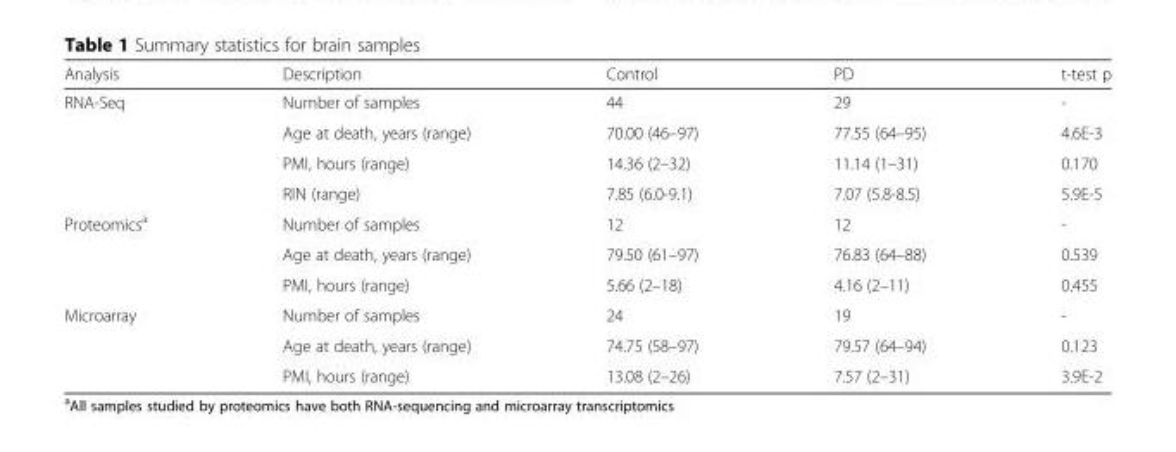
<table><thead><tr><td>Analysis</td><td>Description</td><td>Control</td><td>PD</td><td>t-test p</td></tr></thead><tbody><tr><td rowspan="4">RNA-Seq</td><td>Number of samples</td><td>44</td><td>29</td><td>-</td></tr><tr><td>Age at death, years (range)</td><td>70.00 (46–97)</td><td>77.55 (64–95)</td><td>4.6E-3</td></tr><tr><td>PMI, hours (range)</td><td>14.36 (2–32)</td><td>11.14 (1–31)</td><td>0.170</td></tr><tr><td>RIN (range)</td><td>7.85 (6.0-9.1)</td><td>7.07 (5.8-8.5)</td><td>5.9E-5</td></tr><tr><td rowspan="3">Proteomics<sup>a</sup></td><td>Number of samples</td><td>12</td><td>12</td><td>-</td></tr><tr><td>Age at death, years (range)</td><td>79.50 (61–97)</td><td>76.83 (64–88)</td><td>0.539</td></tr><tr><td>PMI, hours (range)</td><td>5.66 (2–18)</td><td>4.16 (2–11)</td><td>0.455</td></tr><tr><td rowspan="3">Microarray</td><td>Number of samples</td><td>24</td><td>19</td><td>-</td></tr><tr><td>Age at death, years (range)</td><td>74.75 (58–97)</td><td>79.57 (64–94)</td><td>0.123</td></tr><tr><td>PMI, hours (range)</td><td>13.08 (2–26)</td><td>7.57 (2–31)</td><td>3.9E-2</td></tr></tbody></table>